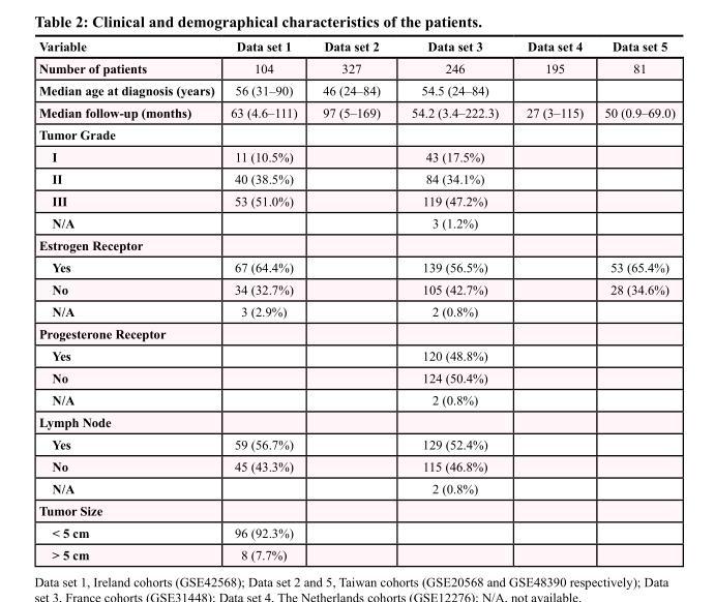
<table><thead><tr><td>Variable</td><td>Data set 1</td><td>Data set 2</td><td>Data set 3</td><td>Data set 4</td><td>Data set 5</td></tr></thead><tbody><tr><td>Number of patients</td><td>104</td><td>327</td><td>246</td><td>195</td><td>81</td></tr><tr><td>Median age at diagnosis (years)</td><td>56 (31–90)</td><td>46 (24–84)</td><td>54.5 (24–84)</td><td></td><td></td></tr><tr><td>Median follow-up (months)</td><td>63 (4.6–111)</td><td>97 (5–169)</td><td>54.2 (3.4–222.3)</td><td>27 (3–115)</td><td>50 (0.9–69.0)</td></tr><tr><td colspan="6">Tumor Grade</td></tr><tr><td>I</td><td>11 (10.5%)</td><td></td><td>43 (17.5%)</td><td></td><td></td></tr><tr><td>II</td><td>40 (38.5%)</td><td></td><td>84 (34.1%)</td><td></td><td></td></tr><tr><td>III</td><td>53 (51.0%)</td><td></td><td>119 (47.2%)</td><td></td><td></td></tr><tr><td>N/A</td><td></td><td></td><td>3 (1.2%)</td><td></td><td></td></tr><tr><td colspan="6">Estrogen Receptor</td></tr><tr><td>Yes</td><td>67 (64.4%)</td><td></td><td>139 (56.5%)</td><td></td><td>53 (65.4%)</td></tr><tr><td>No</td><td>34 (32.7%)</td><td></td><td>105 (42.7%)</td><td></td><td>28 (34.6%)</td></tr><tr><td>N/A</td><td>3 (2.9%)</td><td></td><td>2 (0.8%)</td><td></td><td></td></tr><tr><td colspan="6">Progesterone Receptor</td></tr><tr><td>Yes</td><td></td><td></td><td>120 (48.8%)</td><td></td><td></td></tr><tr><td>No</td><td></td><td></td><td>124 (50.4%)</td><td></td><td></td></tr><tr><td>N/A</td><td></td><td></td><td>2 (0.8%)</td><td></td><td></td></tr><tr><td colspan="6">Lymph Node</td></tr><tr><td>Yes</td><td>59 (56.7%)</td><td></td><td>129 (52.4%)</td><td></td><td></td></tr><tr><td>No</td><td>45 (43.3%)</td><td></td><td>115 (46.8%)</td><td></td><td></td></tr><tr><td>N/A</td><td></td><td></td><td>2 (0.8%)</td><td></td><td></td></tr><tr><td colspan="6">Tumor Size</td></tr><tr><td>&lt; 5 cm</td><td>96 (92.3%)</td><td></td><td></td><td></td><td></td></tr><tr><td>&gt; 5 cm</td><td>8 (7.7%)</td><td></td><td></td><td></td><td></td></tr></tbody></table>